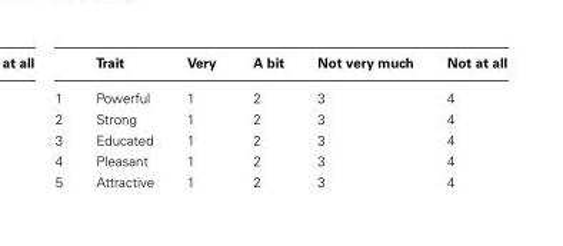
<table><thead><tr><td></td><td>Trait</td><td>Very</td><td>A bit</td><td>Not very much</td><td>Not at all</td></tr></thead><tbody><tr><td>1</td><td>Powerful</td><td>1</td><td>2</td><td>3</td><td>4</td></tr><tr><td>2</td><td>Strong</td><td>1</td><td>2</td><td>3</td><td>4</td></tr><tr><td>3</td><td>Educated</td><td>1</td><td>2</td><td>3</td><td>4</td></tr><tr><td>4</td><td>Pleasant</td><td>1</td><td>2</td><td>3</td><td>4</td></tr><tr><td>5</td><td>Attractive</td><td>1</td><td>2</td><td>3</td><td>4</td></tr></tbody></table>